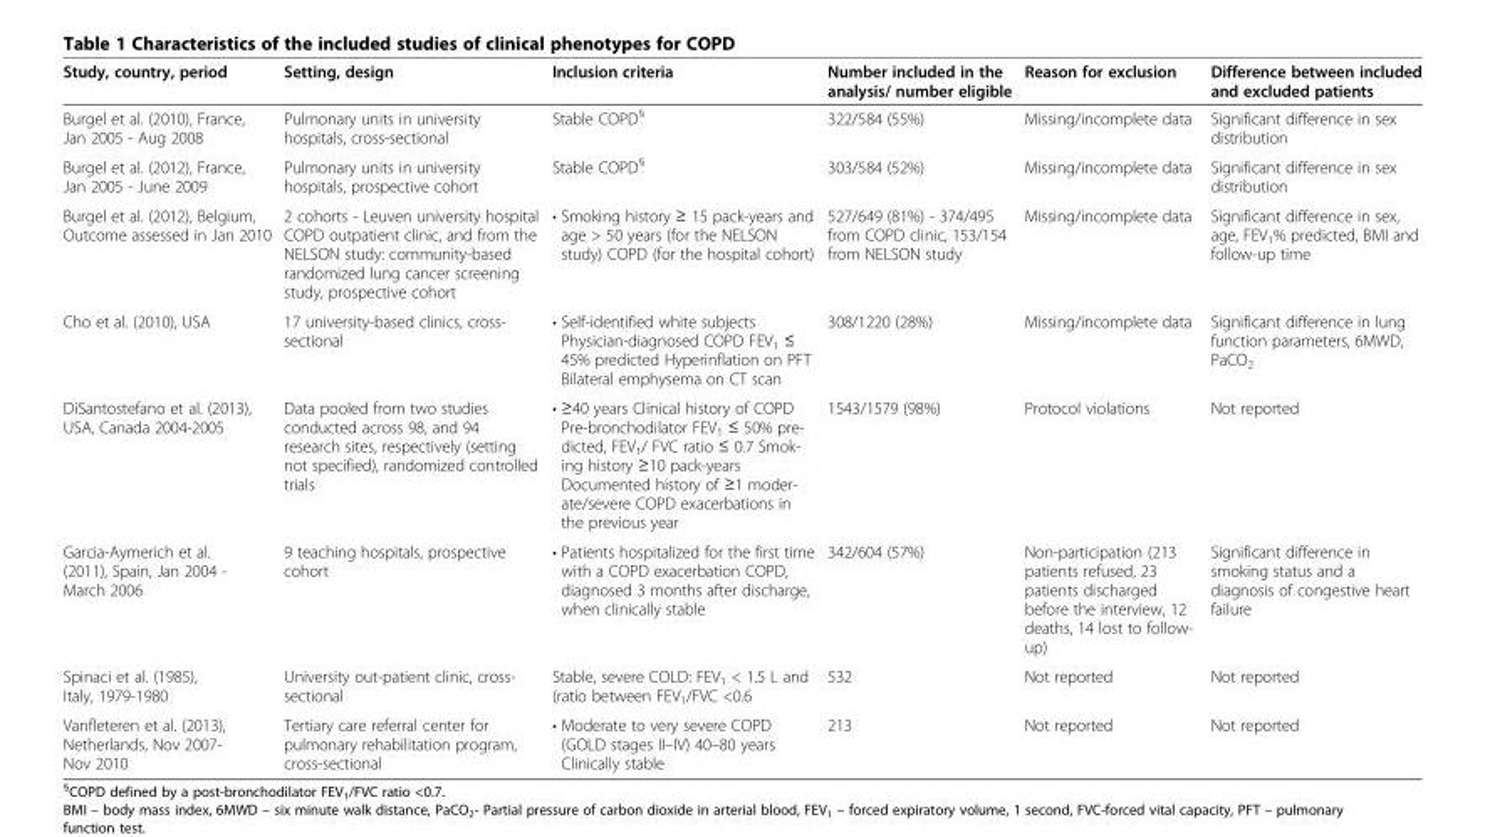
<table><thead><tr><td>Study, country, period</td><td>Setting, design</td><td>Inclusion criteria</td><td>Number included in the analysis/ number eligible</td><td>Reason for exclusion</td><td>Difference between included and excluded patients</td></tr></thead><tbody><tr><td>Burgel et al. (2010), France, Jan 2005 - Aug 2008</td><td>Pulmonary units in university hospitals, cross-sectional</td><td>Stable COPD<sup>§</sup></td><td>322/584 (55%)</td><td>Missing/incomplete data</td><td>Significant difference in sex distribution</td></tr><tr><td>Burgel et al. (2012), France, Jan 2005 - June 2009</td><td>Pulmonary units in university hospitals, prospective cohort</td><td>Stable COPD<sup>§</sup></td><td>303/584 (52%)</td><td>Missing/incomplete data</td><td>Significant difference in sex distribution</td></tr><tr><td>Burgel et al. (2012), Belgium, Outcome assessed in Jan 2010</td><td>2 cohorts - Leuven university hospital COPD outpatient clinic, and from the NELSON study: community-based randomized lung cancer screening study, prospective cohort</td><td>• Smoking history ≥ 15 pack-years and age &gt; 50 years (for the NELSON study) COPD (for the hospital cohort)</td><td>527/649 (81%) - 374/495 from COPD clinic, 153/154 from NELSON study</td><td>Missing/incomplete data</td><td>Significant difference in sex, age, FEV<sub>1</sub>% predicted, BMI and follow-up time</td></tr><tr><td>Cho et al. (2010), USA</td><td>17 university-based clinics, cross- sectional</td><td>• Self-identified white subjects Physician-diagnosed COPD FEV<sub>1</sub> ≤ 45% predicted Hyperinflation on PFT Bilateral emphysema on CT scan</td><td>308/1220 (28%)</td><td>Missing/incomplete data</td><td>Significant difference in lung function parameters, 6MWD, PaCO<sub>2</sub></td></tr><tr><td>DiSantostefano et al. (2013), USA, Canada 2004-2005</td><td>Data pooled from two studies conducted across 98, and 94 research sites, respectively (setting not specified), randomized controlled trials</td><td>• ≥40 years Clinical history of COPD Pre-bronchodilator FEV1 ≤ 50% pre- dicted, FEV1/ FVC ratio ≤ 0.7 Smok- ing history ≥10 pack-years Documented history of ≥1 moder- ate/severe COPD exacerbations in the previous year</td><td>1543/1579 (98%)</td><td>Protocol violations</td><td>Not reported</td></tr><tr><td>Garcia-Aymerich et al. (2011), Spain, Jan 2004 - March 2006</td><td>9 teaching hospitals, prospective cohort</td><td>• Patients hospitalized for the first time with a COPD exacerbation COPD, diagnosed 3 months after discharge, when clinically stable</td><td>342/604 (57%)</td><td>Non-participation (213 patients refused, 23 patients discharged before the interview, 12 deaths, 14 lost to follow- up)</td><td>Significant difference in smoking status and a diagnosis of congestive heart failure</td></tr><tr><td>Spinaci et al. (1985), Italy, 1979-1980</td><td>University out-patient clinic, cross- sectional</td><td>Stable, severe COLD: FEV<sub>1</sub> &lt; 1.5 L and (ratio between FEV<sub>1</sub>/FVC &lt;0.6</td><td>532</td><td>Not reported</td><td>Not reported</td></tr><tr><td>Vanfleteren et al. (2013), Netherlands, Nov 2007- Nov 2010</td><td>Tertiary care referral center for pulmonary rehabilitation program, cross-sectional</td><td>• Moderate to very severe COPD (GOLD stages II–IV) 40–80 years Clinically stable</td><td>213</td><td>Not reported</td><td>Not reported</td></tr></tbody></table>